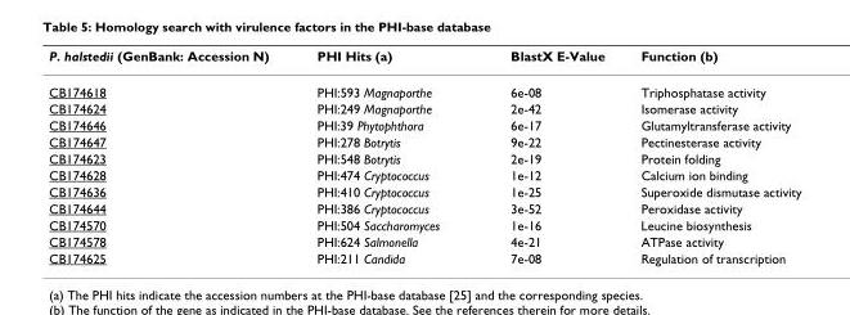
<table><thead><tr><td>P. halstedii (GenBank: Accession N)</td><td>PHI Hits (a)</td><td>BlastX E-Value</td><td>Function (b)</td></tr></thead><tbody><tr><td>CB174618</td><td>PHI:593 Magnaporthe</td><td>6e-08</td><td>Triphosphatase activity</td></tr><tr><td>CB174624</td><td>PHI:249 Magnaporthe</td><td>2e-42</td><td>Isomerase activity</td></tr><tr><td>CB174646</td><td>PHI:39 Phytophthora</td><td>6e-17</td><td>Glutamyltransferase activity</td></tr><tr><td>CB174647</td><td>PHI:278 Botrytis</td><td>9e-22</td><td>Pectinesterase activity</td></tr><tr><td>CB174623</td><td>PHI:548 Botrytis</td><td>2e-19</td><td>Protein folding</td></tr><tr><td>CB174628</td><td>PHI:474 Cryptococcus</td><td>1e-12</td><td>Calcium ion binding</td></tr><tr><td>CB174636</td><td>PHI:410 Cryptococcus</td><td>1e-25</td><td>Superoxide dismutase activity</td></tr><tr><td>CB174644</td><td>PHI:386 Cryptococcus</td><td>3e-52</td><td>Peroxidase activity</td></tr><tr><td>CB174570</td><td>PHI:504 Saccharomyces</td><td>1e-16</td><td>Leucine biosynthesis</td></tr><tr><td>CB174578</td><td>PHI:624 Salmonella</td><td>4e-21</td><td>ATPase activity</td></tr><tr><td>CB174625</td><td>PHI:211 Candida</td><td>7e-08</td><td>Regulation of transcription</td></tr></tbody></table>